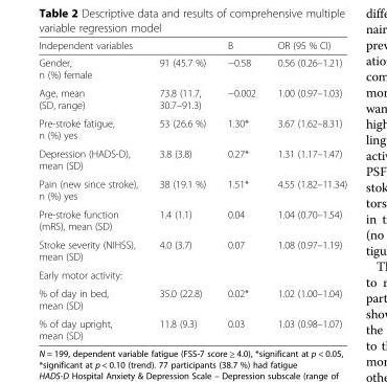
<table><thead><tr><td>Independent variables</td><td></td><td>B</td><td>OR (95 % CI)</td></tr></thead><tbody><tr><td>Gender, n (%) female</td><td>91 (45.7 %)</td><td>−0.58</td><td>0.56 (0.26–1.21)</td></tr><tr><td>Age, mean (SD, range)</td><td>73.8 (11.7, 30.7–91.3)</td><td>−0.002</td><td>1.00 (0.97–1.03)</td></tr><tr><td>Pre-stroke fatigue, n (%) yes</td><td>53 (26.6 %)</td><td>1.30*</td><td>3.67 (1.62–8.31)</td></tr><tr><td>Depression (HADS-D), mean (SD)</td><td>3.8 (3.8)</td><td>0.27*</td><td>1.31 (1.17–1.47)</td></tr><tr><td>Pain (new since stroke), n (%) yes</td><td>38 (19.1 %)</td><td>1.51*</td><td>4.55 (1.82–11.34)</td></tr><tr><td>Pre-stroke function (mRS), mean (SD)</td><td>1.4 (1.1)</td><td>0.04</td><td>1.04 (0.70–1.54)</td></tr><tr><td>Stroke severity (NIHSS), mean (SD)</td><td>4.0 (3.7)</td><td>0.07</td><td>1.08 (0.97–1.19)</td></tr><tr><td colspan="4">Early motor activity:</td></tr><tr><td>% of day in bed, mean (SD)</td><td>35.0 (22.8)</td><td>0.02*</td><td>1.02 (1.00–1.04)</td></tr><tr><td>% of day upright, mean (SD)</td><td>11.8 (9.3)</td><td>0.03</td><td>1.03 (0.98–1.07)</td></tr></tbody></table>